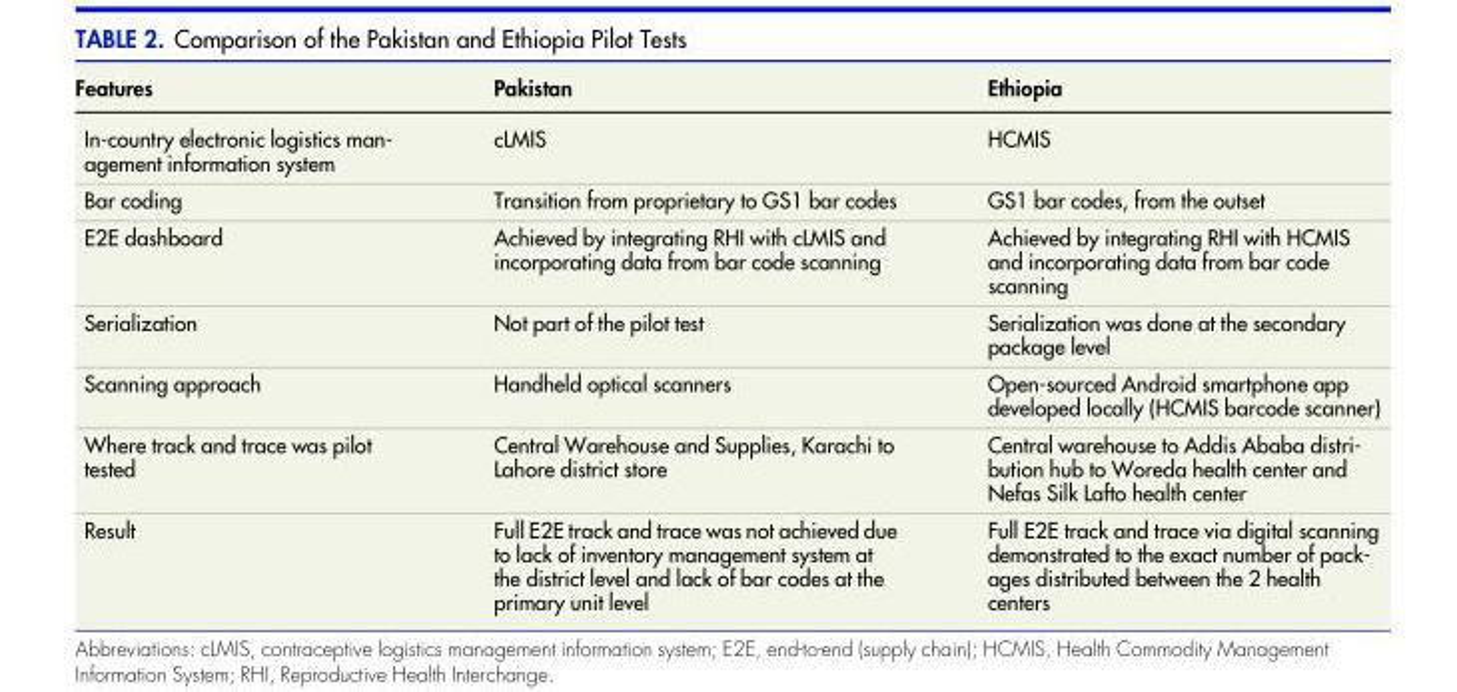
<table><thead><tr><td>Features</td><td>Pakistan</td><td>Ethiopia</td></tr></thead><tbody><tr><td>In-country electronic logistics man- agement information system</td><td>cLMIS</td><td>HCMIS</td></tr><tr><td>Bar coding</td><td>Transition from proprietary to GS1 bar codes</td><td>GS1 bar codes, from the outset</td></tr><tr><td>E2E dashboard</td><td>Achieved by integrating RHI with cLMIS and incorporating data from bar code scanning</td><td>Achieved by integrating RHI with HCMIS and incorporating data from bar code scanning</td></tr><tr><td>Serialization</td><td>Not part of the pilot test</td><td>Serialization was done at the secondary package level</td></tr><tr><td>Scanning approach</td><td>Handheld optical scanners</td><td>Open-sourced Android smartphone app developed locally (HCMIS barcode scanner)</td></tr><tr><td>Where track and trace was pilot tested</td><td>Central Warehouse and Supplies, Karachi to Lahore district store</td><td>Central warehouse to Addis Ababa distri- bution hub to Woreda health center and Nefas Silk Lafto health center</td></tr><tr><td>Result</td><td>Full E2E track and trace was not achieved due to lack of inventory management system at the district level and lack of bar codes at the primary unit level</td><td>Full E2E track and trace via digital scanning demonstrated to the exact number of pack- ages distributed between the 2 health centers</td></tr></tbody></table>